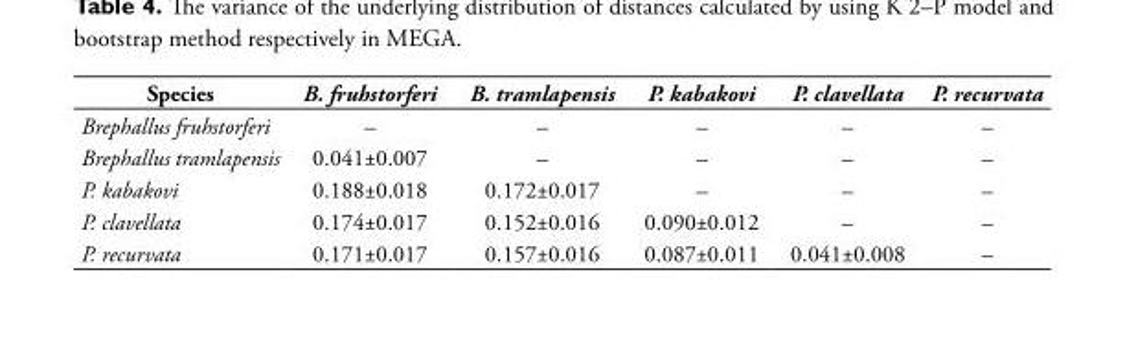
<table><thead><tr><td>Species</td><td>B. fruhstorferi</td><td>B. tramlapensis</td><td>P. kabakovi</td><td>P. clavellata</td><td>P. recurvata</td></tr></thead><tbody><tr><td>Brephallus fruhstorferi</td><td>–</td><td>–</td><td>–</td><td>–</td><td>–</td></tr><tr><td>Brephallus tramlapensis</td><td>0.041±0.007</td><td>–</td><td>–</td><td>–</td><td>–</td></tr><tr><td>P. kabakovi</td><td>0.188±0.018</td><td>0.172±0.017</td><td>–</td><td>–</td><td>–</td></tr><tr><td>P. clavellata</td><td>0.174±0.017</td><td>0.152±0.016</td><td>0.090±0.012</td><td>–</td><td>–</td></tr><tr><td>P. recurvata</td><td>0.171±0.017</td><td>0.157±0.016</td><td>0.087±0.011</td><td>0.041±0.008</td><td>–</td></tr></tbody></table>